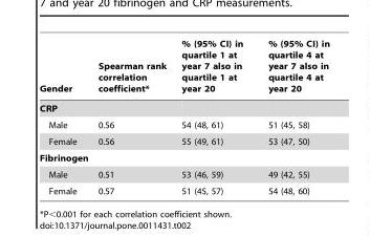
<table><thead><tr><td>Gender</td><td>Spearman rank correlation coefficient*</td><td>% (95% CI) in quartile 1 at year 7 also in quartile 1 at year 20</td><td>% (95% CI) in quartile 4 at year 7 also in quartile 4 at year 20</td></tr></thead><tbody><tr><td colspan="4">CRP</td></tr><tr><td>Male</td><td>0.56</td><td>54 (48, 61)</td><td>51 (45, 58)</td></tr><tr><td>Female</td><td>0.56</td><td>55 (49, 61)</td><td>53 (47, 50)</td></tr><tr><td colspan="4">Fibrinogen</td></tr><tr><td>Male</td><td>0.51</td><td>53 (46, 59)</td><td>49 (42, 55)</td></tr><tr><td>Female</td><td>0.57</td><td>51 (45, 57)</td><td>54 (48, 60)</td></tr></tbody></table>